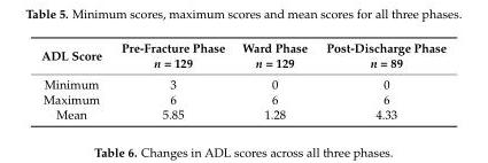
<table><thead><tr><td>ADL Score</td><td>Pre-Fracture Phase n = 129</td><td>Ward Phase n = 129</td><td>Post-Discharge Phase n = 89</td></tr></thead><tbody><tr><td>Minimum</td><td>3</td><td>0</td><td>0</td></tr><tr><td>Maximum</td><td>6</td><td>6</td><td>6</td></tr><tr><td>Mean</td><td>5.85</td><td>1.28</td><td>4.33</td></tr></tbody></table>